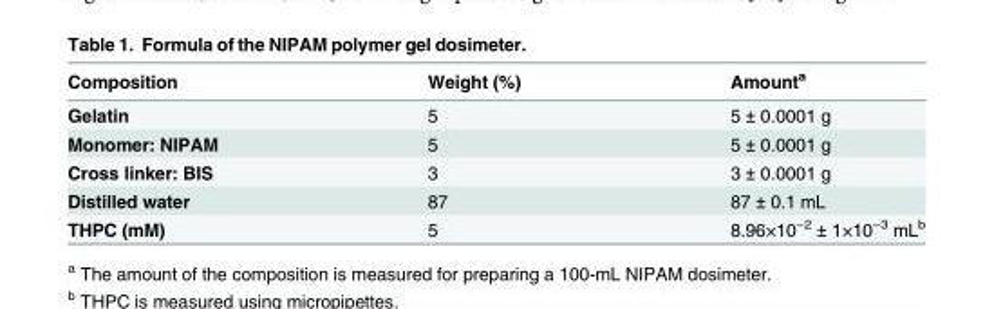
<table><thead><tr><td>Composition</td><td>Weight (%)</td><td>Amount<sup>a</sup></td></tr></thead><tbody><tr><td>Gelatin</td><td>5</td><td>5 ± 0.0001 g</td></tr><tr><td>Monomer: NIPAM</td><td>5</td><td>5 ± 0.0001 g</td></tr><tr><td>Cross linker: BIS</td><td>3</td><td>3 ± 0.0001 g</td></tr><tr><td>Distilled water</td><td>87</td><td>87 ± 0.1 mL</td></tr><tr><td>THPC (mM)</td><td>5</td><td>8.96×10<sup>−2</sup> ± 1×10<sup>−3</sup> mL<sup>b</sup></td></tr></tbody></table>